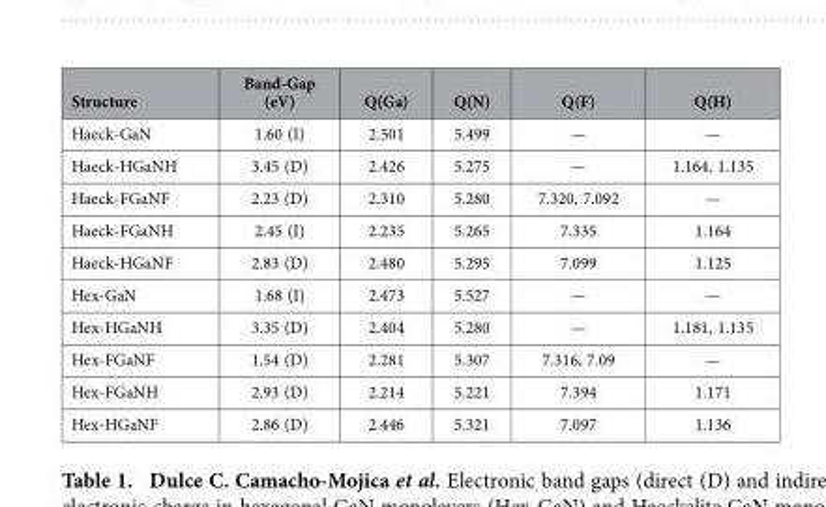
<table><thead><tr><td>Structure</td><td>Band-Gap (eV)</td><td>Q(Ga)</td><td>Q(N)</td><td>Q(F)</td><td>Q(H)</td></tr></thead><tbody><tr><td>Haeck-GaN</td><td>1.60 (I)</td><td>2.501</td><td>5.499</td><td>—</td><td>—</td></tr><tr><td>Haeck-HGaNH</td><td>3.45 (D)</td><td>2.426</td><td>5.275</td><td>—</td><td>1.164, 1.135</td></tr><tr><td>Haeck-FGaNF</td><td>2.23 (D)</td><td>2.310</td><td>5.280</td><td>7.320, 7.092</td><td>—</td></tr><tr><td>Haeck-FGaNH</td><td>2.45 (I)</td><td>2.235</td><td>5.265</td><td>7.335</td><td>1.164</td></tr><tr><td>Haeck-HGaNF</td><td>2.83 (D)</td><td>2.480</td><td>5.295</td><td>7.099</td><td>1.125</td></tr><tr><td>Hex-GaN</td><td>1.68 (I)</td><td>2.473</td><td>5.527</td><td>—</td><td>—</td></tr><tr><td>Hex-HGaNH</td><td>3.35 (D)</td><td>2.404</td><td>5.280</td><td>—</td><td>1.181, 1.135</td></tr><tr><td>Hex-FGaNF</td><td>1.54 (D)</td><td>2.281</td><td>5.307</td><td>7.316, 7.09</td><td>—</td></tr><tr><td>Hex-FGaNH</td><td>2.93 (D)</td><td>2.214</td><td>5.221</td><td>7.394</td><td>1.171</td></tr><tr><td>Hex-HGaNF</td><td>2.86 (D)</td><td>2.446</td><td>5.321</td><td>7.097</td><td>1.136</td></tr></tbody></table>